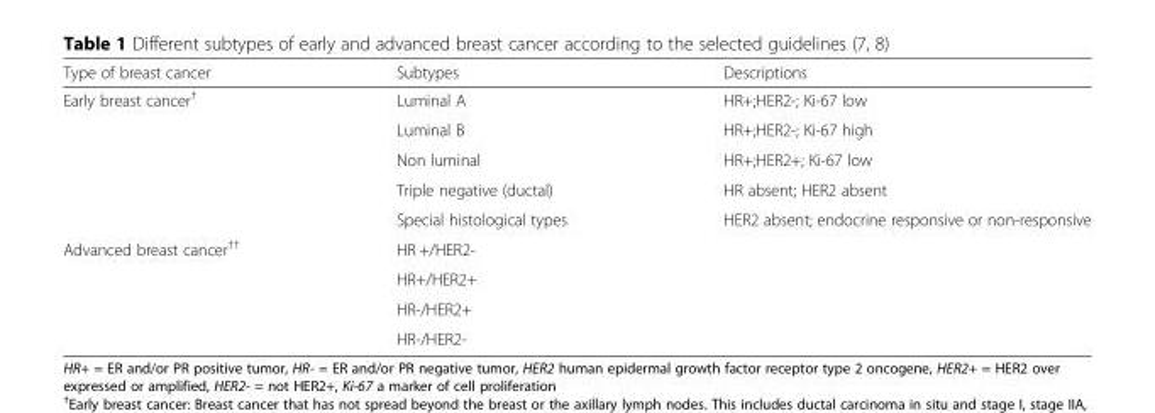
<table><thead><tr><td>Type of breast cancer</td><td>Subtypes</td><td>Descriptions</td></tr></thead><tbody><tr><td rowspan="5">Early breast cancer<sup>†</sup></td><td>Luminal A</td><td>HR+;HER2-; Ki-67 low</td></tr><tr><td>Luminal B</td><td>HR+;HER2-; Ki-67 high</td></tr><tr><td>Non luminal</td><td>HR+;HER2+; Ki-67 low</td></tr><tr><td>Triple negative (ductal)</td><td>HR absent; HER2 absent</td></tr><tr><td>Special histological types</td><td>HER2 absent; endocrine responsive or non-responsive</td></tr><tr><td rowspan="4">Advanced breast cancer<sup>††</sup></td><td>HR +/HER2-</td><td></td></tr><tr><td>HR+/HER2+</td><td></td></tr><tr><td>HR-/HER2+</td><td></td></tr><tr><td>HR-/HER2-</td><td></td></tr></tbody></table>